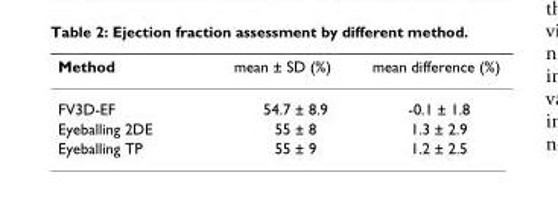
<table><tbody><tr><td>Method</td><td>mean ± SD (%)</td><td>mean difference (%)</td></tr><tr><td>FV3D-EF</td><td>54.7 ± 8.9</td><td>-0.1 ± 1.8</td></tr><tr><td>Eyeballing 2DE</td><td>55 ± 8</td><td>1.3 ± 2.9</td></tr><tr><td>Eyeballing TP</td><td>55 ± 9</td><td>1.2 ± 2.5</td></tr></tbody></table>